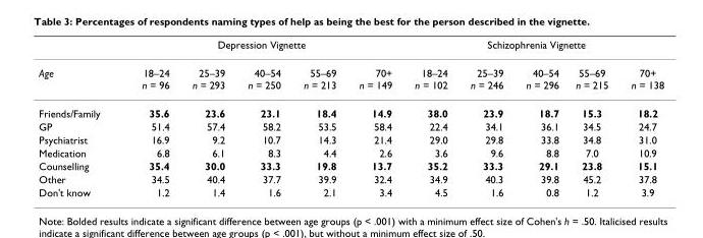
<table><thead><tr><td rowspan="2">Age</td><td colspan="5">Depression Vignette</td><td colspan="5">Schizophrenia Vignette</td></tr><tr><td>18–24 n = 96</td><td>25–39 n = 293</td><td>40–54 n = 250</td><td>55–69 n = 213</td><td>70+ n = 149</td><td>18–24 n = 102</td><td>25–39 n = 246</td><td>40–54 n = 296</td><td>55–69 n = 215</td><td>70+ n = 138</td></tr></thead><tbody><tr><td>Friends/Family</td><td>35.6</td><td>23.6</td><td>23.1</td><td>18.4</td><td>14.9</td><td>38.0</td><td>23.9</td><td>18.7</td><td>15.3</td><td>18.2</td></tr><tr><td>GP</td><td>51.4</td><td>57.4</td><td>58.2</td><td>53.5</td><td>58.4</td><td>22.4</td><td>34.1</td><td>36.1</td><td>34.5</td><td>24.7</td></tr><tr><td>Psychiatrist</td><td>16.9</td><td>9.2</td><td>10.7</td><td>14.3</td><td>21.4</td><td>29.0</td><td>29.8</td><td>33.8</td><td>34.8</td><td>31.0</td></tr><tr><td>Medication</td><td>6.8</td><td>6.1</td><td>8.3</td><td>4.4</td><td>2.6</td><td>3.6</td><td>9.6</td><td>8.8</td><td>7.0</td><td>10.9</td></tr><tr><td>Counselling</td><td>35.4</td><td>30.0</td><td>33.3</td><td>19.8</td><td>13.7</td><td>35.2</td><td>33.3</td><td>29.1</td><td>23.8</td><td>15.1</td></tr><tr><td>Other</td><td>34.5</td><td>40.4</td><td>37.7</td><td>39.9</td><td>32.4</td><td>34.9</td><td>40.3</td><td>39.8</td><td>45.2</td><td>37.8</td></tr><tr><td>Don&#x27;t know</td><td>1.2</td><td>1.4</td><td>1.6</td><td>2.1</td><td>3.4</td><td>4.5</td><td>1.6</td><td>0.8</td><td>1.2</td><td>3.9</td></tr></tbody></table>